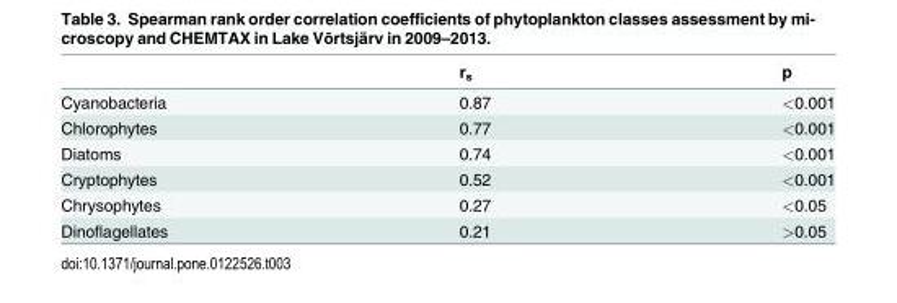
<table><thead><tr><td></td><td>r<sub>s</sub></td><td>p</td></tr></thead><tbody><tr><td>Cyanobacteria</td><td>0.87</td><td>&lt;0.001</td></tr><tr><td>Chlorophytes</td><td>0.77</td><td>&lt;0.001</td></tr><tr><td>Diatoms</td><td>0.74</td><td>&lt;0.001</td></tr><tr><td>Cryptophytes</td><td>0.52</td><td>&lt;0.001</td></tr><tr><td>Chrysophytes</td><td>0.27</td><td>&lt;0.05</td></tr><tr><td>Dinoflagellates</td><td>0.21</td><td>&gt;0.05</td></tr></tbody></table>